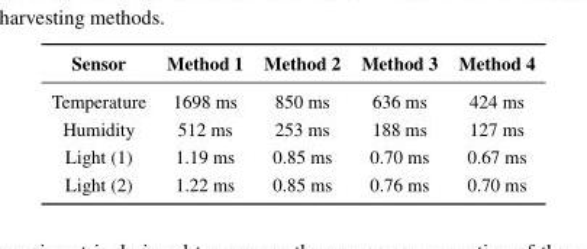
<table><thead><tr><td>Sensor</td><td>Method 1</td><td>Method 2</td><td>Method 3</td><td>Method 4</td></tr></thead><tbody><tr><td>Temperature</td><td>1698 ms</td><td>850 ms</td><td>636 ms</td><td>424 ms</td></tr><tr><td>Humidity</td><td>512 ms</td><td>253 ms</td><td>188 ms</td><td>127 ms</td></tr><tr><td>Light (1)</td><td>1.19 ms</td><td>0.85 ms</td><td>0.70 ms</td><td>0.67 ms</td></tr><tr><td>Light (2)</td><td>1.22 ms</td><td>0.85 ms</td><td>0.76 ms</td><td>0.70 ms</td></tr></tbody></table>